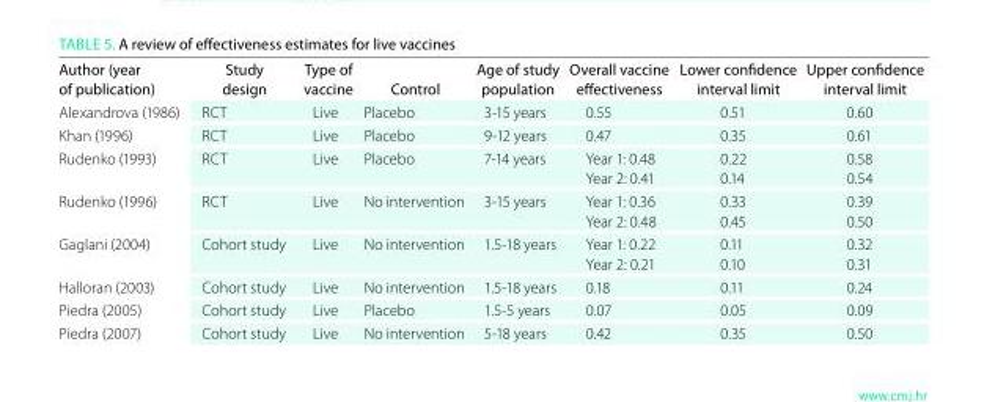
<table><thead><tr><td>Author (year of publication)</td><td>Study design</td><td>type of vaccine</td><td>Control</td><td>Age of study population</td><td>overall vaccine effectiveness</td><td>Lower confidence interval limit</td><td>upper confidence interval limit</td></tr></thead><tbody><tr><td>Alexandrova (1986)</td><td>RCT</td><td>Live</td><td>Placebo</td><td>3-15 years</td><td>0.55</td><td>0.51</td><td>0.60</td></tr><tr><td>Khan (1996)</td><td>RCT</td><td>Live</td><td>Placebo</td><td>9-12 years</td><td>0.47</td><td>0.35</td><td>0.61</td></tr><tr><td>Rudenko (1993)</td><td>RCT</td><td>Live</td><td>Placebo</td><td>7-14 years</td><td>Year 1: 0.48 Year 2: 0.41</td><td>0.22 0.14</td><td>0.58 0.54</td></tr><tr><td>Rudenko (1996)</td><td>RCT</td><td>Live</td><td>No intervention</td><td>3-15 years</td><td>Year 1: 0.36 Year 2: 0.48</td><td>0.33 0.45</td><td>0.39 0.50</td></tr><tr><td>Gaglani (2004)</td><td>Cohort study</td><td>Live</td><td>No intervention</td><td>1.5-18 years</td><td>Year 1: 0.22 Year 2: 0.21</td><td>0.11 0.10</td><td>0.32 0.31</td></tr><tr><td>Halloran (2003)</td><td>Cohort study</td><td>Live</td><td>No intervention</td><td>1.5-18 years</td><td>0.18</td><td>0.11</td><td>0.24</td></tr><tr><td>Piedra (2005)</td><td>Cohort study</td><td>Live</td><td>Placebo</td><td>1.5-5 years</td><td>0.07</td><td>0.05</td><td>0.09</td></tr><tr><td>Piedra (2007)</td><td>Cohort study</td><td>Live</td><td>No intervention</td><td>5-18 years</td><td>0.42</td><td>0.35</td><td>0.50</td></tr></tbody></table>